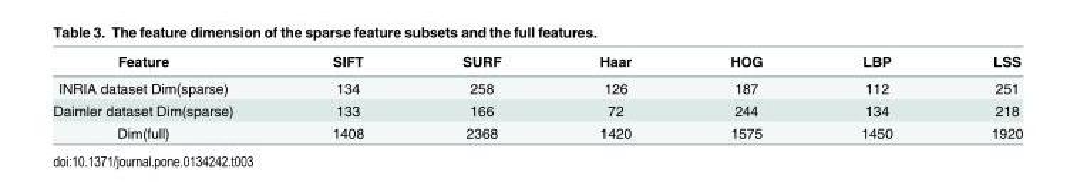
<table><thead><tr><td>Feature</td><td>SIFT</td><td>SURF</td><td>Haar</td><td>HOG</td><td>LBP</td><td>LSS</td></tr></thead><tbody><tr><td>INRIA dataset Dim(sparse)</td><td>134</td><td>258</td><td>126</td><td>187</td><td>112</td><td>251</td></tr><tr><td>Daimler dataset Dim(sparse)</td><td>133</td><td>166</td><td>72</td><td>244</td><td>134</td><td>218</td></tr><tr><td>Dim(full)</td><td>1408</td><td>2368</td><td>1420</td><td>1575</td><td>1450</td><td>1920</td></tr></tbody></table>